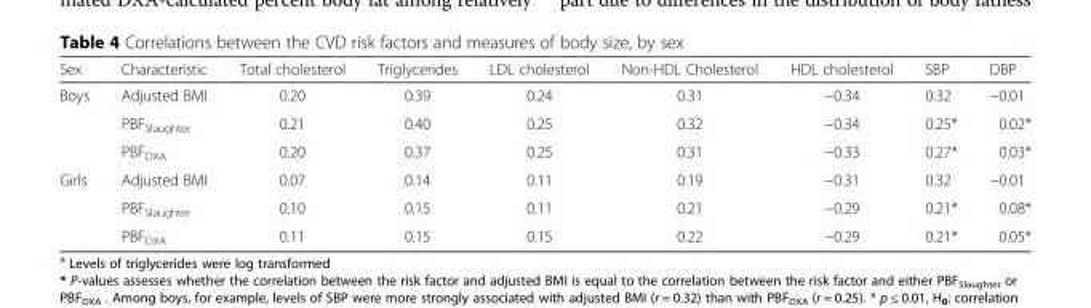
<table><thead><tr><td>Sex</td><td>Characteristic</td><td>Total cholesterol</td><td>Triglycerides</td><td>LDL cholesterol</td><td>Non-HDL Cholesterol</td><td>HDL cholesterol</td><td>SBP</td><td>DBP</td></tr></thead><tbody><tr><td rowspan="3">Boys</td><td>Adjusted BMI</td><td>0.20</td><td>0.39</td><td>0.24</td><td>0.31</td><td>−0.34</td><td>0.32</td><td>−0.01</td></tr><tr><td>PBF<sub>Slaughter</sub></td><td>0.21</td><td>0.40</td><td>0.25</td><td>0.32</td><td>−0.34</td><td>0.25*</td><td>0.02*</td></tr><tr><td>PBF<sub>DXA</sub></td><td>0.20</td><td>0.37</td><td>0.25</td><td>0.31</td><td>−0.33</td><td>0.27*</td><td>0.03*</td></tr><tr><td rowspan="3">Girls</td><td>Adjusted BMI</td><td>0.07</td><td>0.14</td><td>0.11</td><td>0.19</td><td>−0.31</td><td>0.32</td><td>−0.01</td></tr><tr><td>PBF<sub>Slaughter</sub></td><td>0.10</td><td>0.15</td><td>0.11</td><td>0.21</td><td>−0.29</td><td>0.21*</td><td>0.08*</td></tr><tr><td>PBF<sub>DXA</sub></td><td>0.11</td><td>0.15</td><td>0.15</td><td>0.22</td><td>−0.29</td><td>0.21*</td><td>0.05*</td></tr></tbody></table>